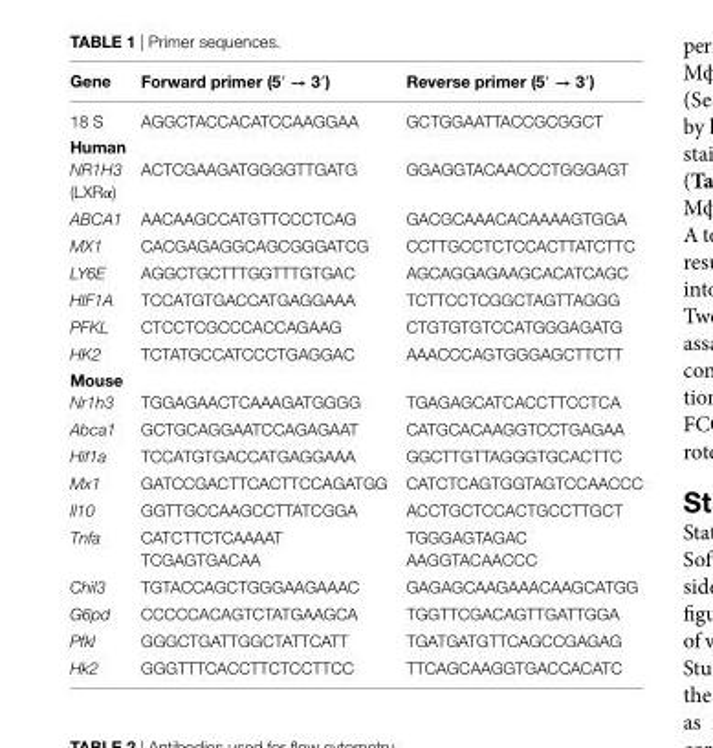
<table><thead><tr><td>gene</td><td>Forward primer (5′ → 3′)</td><td>reverse primer (5′ → 3′)</td></tr></thead><tbody><tr><td>18 S</td><td>AGGCTACCACATCCAAGGAA</td><td>GCTGGAATTACCGCGGCT</td></tr><tr><td colspan="3">human</td></tr><tr><td>NR1H3 (LXRα)</td><td>ACTCGAAGATGGGGTTGATG</td><td>GGAGGTACAACCCTGGGAGT</td></tr><tr><td>ABCA1</td><td>AACAAGCCATGTTCCCTCAG</td><td>GACGCAAACACAAAAGTGGA</td></tr><tr><td>MX1</td><td>CACGAGAGGCAGCGGGATCG</td><td>CCTTGCCTCTCCACTTATCTTC</td></tr><tr><td>LY6E</td><td>AGGCTGCTTTGGTTTGTGAC</td><td>AGCAGGAGAAGCACATCAGC</td></tr><tr><td>HIF1A</td><td>TCCATGTGACCATGAGGAAA</td><td>TCTTCCTCGGCTAGTTAGGG</td></tr><tr><td>PFKL</td><td>CTCCTCGCCCACCAGAAG</td><td>CTGTGTGTCCATGGGAGATG</td></tr><tr><td>HK2</td><td>TCTATGCCATCCCTGAGGAC</td><td>AAACCCAGTGGGAGCTTCTT</td></tr><tr><td colspan="3">Mouse</td></tr><tr><td>Nr1h3</td><td>TGGAGAACTCAAAGATGGGG</td><td>TGAGAGCATCACCTTCCTCA</td></tr><tr><td>Abca1</td><td>GCTGCAGGAATCCAGAGAAT</td><td>CATGCACAAGGTCCTGAGAA</td></tr><tr><td>Hif1a</td><td>TCCATGTGACCATGAGGAAA</td><td>GGCTTGTTAGGGTGCACTTC</td></tr><tr><td>Mx1</td><td>GATCCGACTTCACTTCCAGATGG</td><td>CATCTCAGTGGTAGTCCAACCC</td></tr><tr><td>Il10</td><td>GGTTGCCAAGCCTTATCGGA</td><td>ACCTGCTCCACTGCCTTGCT</td></tr><tr><td>Tnfa</td><td>CATCTTCTCAAAAT TCGAGTGACAA</td><td>TGGGAGTAGAC AAGGTACAACCC</td></tr><tr><td>Chil3</td><td>TGTACCAGCTGGGAAGAAAC</td><td>GAGAGCAAGAAACAAGCATGG</td></tr><tr><td>G6pd</td><td>CCCCCACAGTCTATGAAGCA</td><td>TGGTTCGACAGTTGATTGGA</td></tr><tr><td>Pfkl</td><td>GGGCTGATTGGCTATTCATT</td><td>TGATGATGTTCAGCCGAGAG</td></tr><tr><td>Hk2</td><td>GGGTTTCACCTTCTCCTTCC</td><td>TTCAGCAAGGTGACCACATC</td></tr></tbody></table>